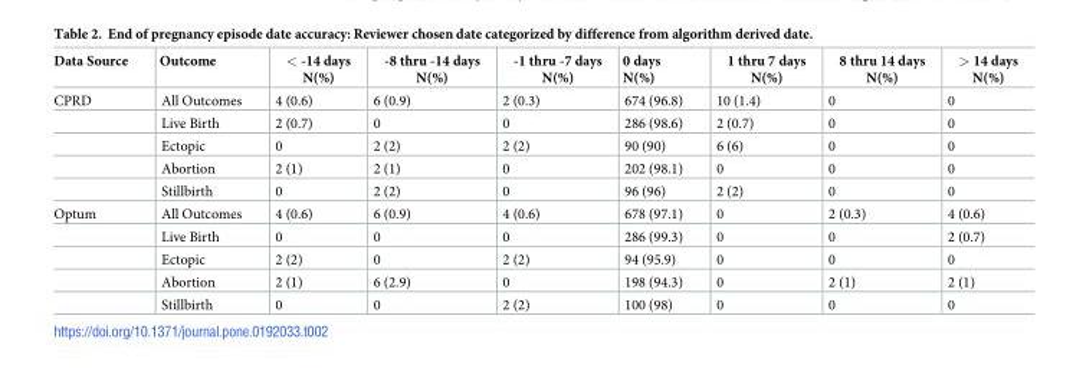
<table><thead><tr><td>Data Source</td><td>Outcome</td><td>&lt; -14 days N(%)</td><td>-8 thru -14 days N(%)</td><td>-1 thru -7 days N(%)</td><td>0 days N(%)</td><td>1 thru 7 days N(%)</td><td>8 thru 14 days N(%)</td><td>&gt; 14 days N(%)</td></tr></thead><tbody><tr><td rowspan="5">CPRD</td><td>All Outcomes</td><td>4 (0.6)</td><td>6 (0.9)</td><td>2 (0.3)</td><td>674 (96.8)</td><td>10 (1.4)</td><td>0</td><td>0</td></tr><tr><td>Live Birth</td><td>2 (0.7)</td><td>0</td><td>0</td><td>286 (98.6)</td><td>2 (0.7)</td><td>0</td><td>0</td></tr><tr><td>Ectopic</td><td>0</td><td>2 (2)</td><td>2 (2)</td><td>90 (90)</td><td>6 (6)</td><td>0</td><td>0</td></tr><tr><td>Abortion</td><td>2 (1)</td><td>2 (1)</td><td>0</td><td>202 (98.1)</td><td>0</td><td>0</td><td>0</td></tr><tr><td>Stillbirth</td><td>0</td><td>2 (2)</td><td>0</td><td>96 (96)</td><td>2 (2)</td><td>0</td><td>0</td></tr><tr><td rowspan="5">Optum</td><td>All Outcomes</td><td>4 (0.6)</td><td>6 (0.9)</td><td>4 (0.6)</td><td>678 (97.1)</td><td>0</td><td>2 (0.3)</td><td>4 (0.6)</td></tr><tr><td>Live Birth</td><td>0</td><td>0</td><td>0</td><td>286 (99.3)</td><td>0</td><td>0</td><td>2 (0.7)</td></tr><tr><td>Ectopic</td><td>2 (2)</td><td>0</td><td>2 (2)</td><td>94 (95.9)</td><td>0</td><td>0</td><td>0</td></tr><tr><td>Abortion</td><td>2 (1)</td><td>6 (2.9)</td><td>0</td><td>198 (94.3)</td><td>0</td><td>2 (1)</td><td>2 (1)</td></tr><tr><td>Stillbirth</td><td>0</td><td>0</td><td>2 (2)</td><td>100 (98)</td><td>0</td><td>0</td><td>0</td></tr></tbody></table>